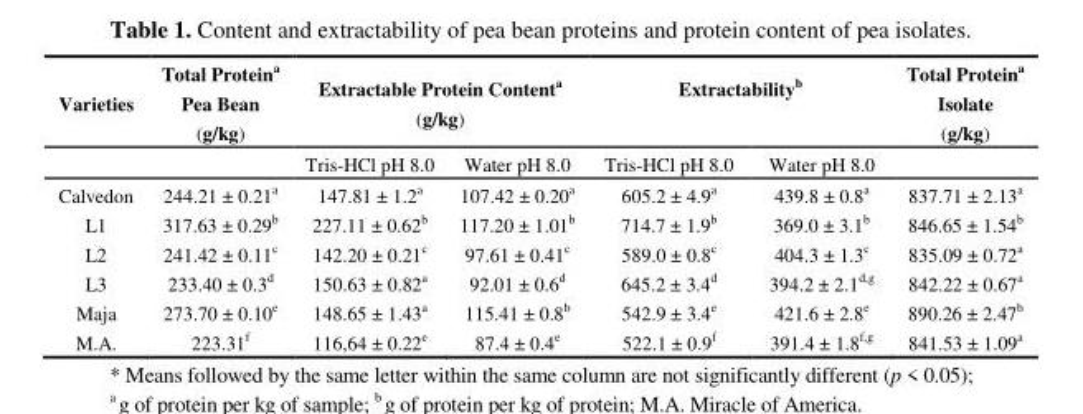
<table><thead><tr><td rowspan="2">Varieties</td><td rowspan="2">Total Protein<sup>a</sup> Pea Bean (g/kg)</td><td colspan="2">Extractable Protein Content<sup>a</sup> (g/kg)</td><td colspan="2">Extractability<sup>b</sup></td><td rowspan="2">Total Protein<sup>a</sup> Isolate (g/kg)</td></tr><tr><td>Tris-HCl pH 8.0</td><td>Water pH 8.0</td><td>Tris-HCl pH 8.0</td><td>Water pH 8.0</td></tr></thead><tbody><tr><td>Calvedon</td><td>244.21 ± 0.21<sup>a</sup></td><td>147.81 ± 1.2<sup>a</sup></td><td>107.42 ± 0.20<sup>a</sup></td><td>605.2 ± 4.9<sup>a</sup></td><td>439.8 ± 0.8<sup>a</sup></td><td>837.71 ± 2.13<sup>a</sup></td></tr><tr><td>L1</td><td>317.63 ± 0.29<sup>b</sup></td><td>227.11 ± 0.62<sup>b</sup></td><td>117.20 ± 1.01<sup>b</sup></td><td>714.7 ± 1.9<sup>b</sup></td><td>369.0 ± 3.1<sup>b</sup></td><td>846.65 ± 1.54<sup>b</sup></td></tr><tr><td>L2</td><td>241.42 ± 0.11<sup>c</sup></td><td>142.20 ± 0.21<sup>c</sup></td><td>97.61 ± 0.41<sup>c</sup></td><td>589.0 ± 0.8<sup>c</sup></td><td>404.3 ± 1.3<sup>c</sup></td><td>835.09 ± 0.72<sup>a</sup></td></tr><tr><td>L3</td><td>233.40 ± 0.3<sup>d</sup></td><td>150.63 ± 0.82<sup>a</sup></td><td>92.01 ± 0.6<sup>d</sup></td><td>645.2 ± 3.4<sup>d</sup></td><td>394.2 ± 2.1<sup>d,g</sup></td><td>842.22 ± 0.67<sup>a</sup></td></tr><tr><td>Maja</td><td>273.70 ± 0.10<sup>e</sup></td><td>148.65 ± 1.43<sup>a</sup></td><td>115.41 ± 0.8<sup>b</sup></td><td>542.9 ± 3.4<sup>e</sup></td><td>421.6 ± 2.8<sup>e</sup></td><td>890.26 ± 2.47<sup>b</sup></td></tr><tr><td>M.A.</td><td>223.31<sup>f</sup></td><td>116,64 ± 0.22<sup>e</sup></td><td>87.4 ± 0.4<sup>e</sup></td><td>522.1 ± 0.9<sup>f</sup></td><td>391.4 ± 1.8<sup>f,g</sup></td><td>841.53 ± 1.09<sup>a</sup></td></tr></tbody></table>